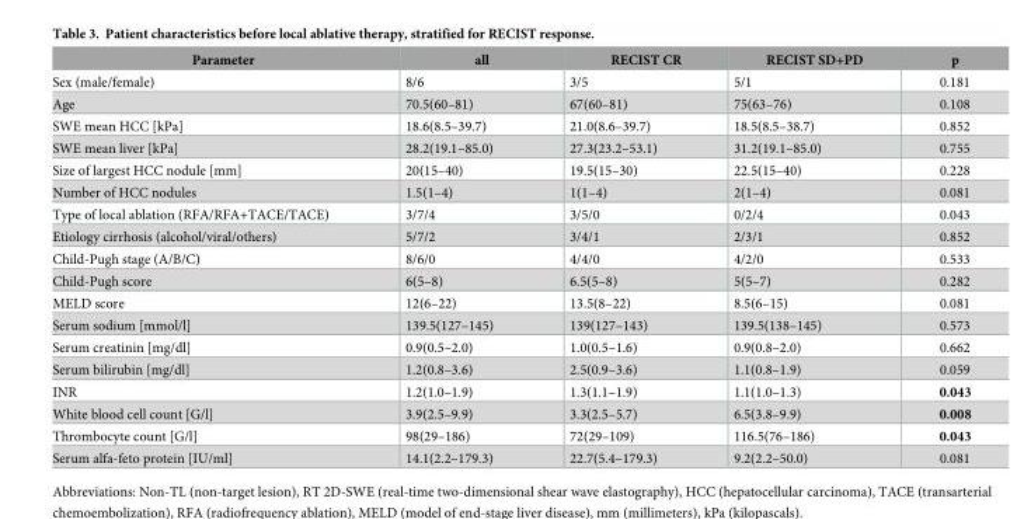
<table><thead><tr><td>Parameter</td><td>all</td><td>RECIST CR</td><td>RECIST SD+PD</td><td>p</td></tr></thead><tbody><tr><td>Sex (male/female)</td><td>8/6</td><td>3/5</td><td>5/1</td><td>0.181</td></tr><tr><td>Age</td><td>70.5(60–81)</td><td>67(60–81)</td><td>75(63–76)</td><td>0.108</td></tr><tr><td>SWE mean HCC [kPa]</td><td>18.6(8.5–39.7)</td><td>21.0(8.6–39.7)</td><td>18.5(8.5–38.7)</td><td>0.852</td></tr><tr><td>SWE mean liver [kPa]</td><td>28.2(19.1–85.0)</td><td>27.3(23.2–53.1)</td><td>31.2(19.1–85.0)</td><td>0.755</td></tr><tr><td>Size of largest HCC nodule [mm]</td><td>20(15–40)</td><td>19.5(15–30)</td><td>22.5(15–40)</td><td>0.228</td></tr><tr><td>Number of HCC nodules</td><td>1.5(1–4)</td><td>1(1–4)</td><td>2(1–4)</td><td>0.081</td></tr><tr><td>Type of local ablation (RFA/RFA+TACE/TACE)</td><td>3/7/4</td><td>3/5/0</td><td>0/2/4</td><td>0.043</td></tr><tr><td>Etiology cirrhosis (alcohol/viral/others)</td><td>5/7/2</td><td>3/4/1</td><td>2/3/1</td><td>0.852</td></tr><tr><td>Child-Pugh stage (A/B/C)</td><td>8/6/0</td><td>4/4/0</td><td>4/2/0</td><td>0.533</td></tr><tr><td>Child-Pugh score</td><td>6(5–8)</td><td>6.5(5–8)</td><td>5(5–7)</td><td>0.282</td></tr><tr><td>MELD score</td><td>12(6–22)</td><td>13.5(8–22)</td><td>8.5(6–15)</td><td>0.081</td></tr><tr><td>Serum sodium [mmol/l]</td><td>139.5(127–145)</td><td>139(127–143)</td><td>139.5(138–145)</td><td>0.573</td></tr><tr><td>Serum creatinin [mg/dl]</td><td>0.9(0.5–2.0)</td><td>1.0(0.5–1.6)</td><td>0.9(0.8–2.0)</td><td>0.662</td></tr><tr><td>Serum bilirubin [mg/dl]</td><td>1.2(0.8–3.6)</td><td>2.5(0.9–3.6)</td><td>1.1(0.8–1.9)</td><td>0.059</td></tr><tr><td>INR</td><td>1.2(1.0–1.9)</td><td>1.3(1.1–1.9)</td><td>1.1(1.0–1.3)</td><td>0.043</td></tr><tr><td>White blood cell count [G/l]</td><td>3.9(2.5–9.9)</td><td>3.3(2.5–5.7)</td><td>6.5(3.8–9.9)</td><td>0.008</td></tr><tr><td>Thrombocyte count [G/l]</td><td>98(29–186)</td><td>72(29–109)</td><td>116.5(76–186)</td><td>0.043</td></tr><tr><td>Serum alfa-feto protein [IU/ml]</td><td>14.1(2.2–179.3)</td><td>22.7(5.4–179.3)</td><td>9.2(2.2–50.0)</td><td>0.081</td></tr></tbody></table>